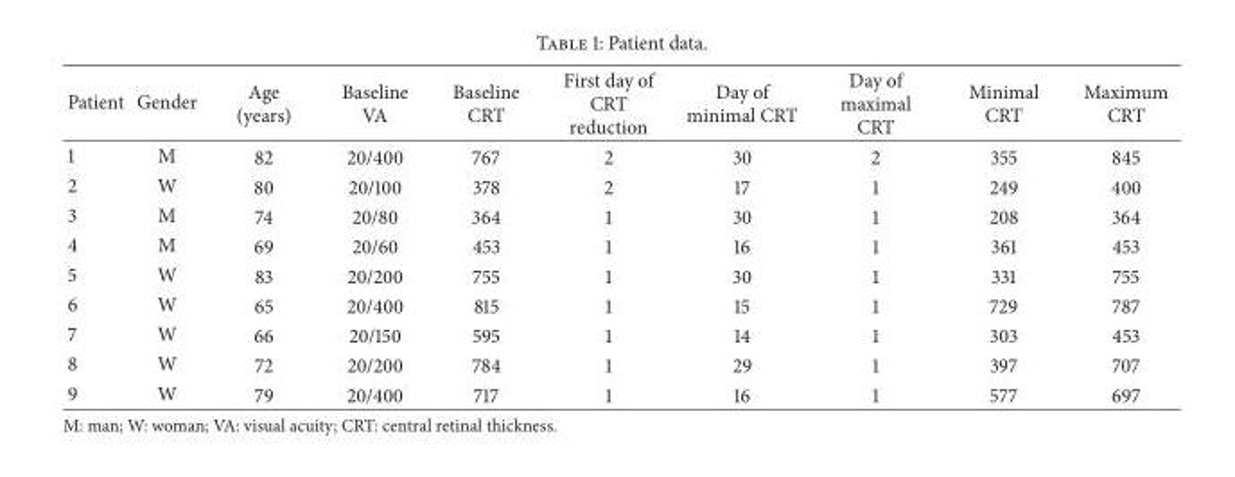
<table><thead><tr><td>Patient</td><td>Gender</td><td>Age (years)</td><td>Baseline VA</td><td>Baseline CRT</td><td>First day of CRT reduction</td><td>Day of minimal CRT</td><td>Day of maximal CRT</td><td>Minimal CRT</td><td>Maximum CRT</td></tr></thead><tbody><tr><td>1</td><td>M</td><td>82</td><td>20/400</td><td>767</td><td>2</td><td>30</td><td>2</td><td>355</td><td>845</td></tr><tr><td>2</td><td>W</td><td>80</td><td>20/100</td><td>378</td><td>2</td><td>17</td><td>1</td><td>249</td><td>400</td></tr><tr><td>3</td><td>M</td><td>74</td><td>20/80</td><td>364</td><td>1</td><td>30</td><td>1</td><td>208</td><td>364</td></tr><tr><td>4</td><td>M</td><td>69</td><td>20/60</td><td>453</td><td>1</td><td>16</td><td>1</td><td>361</td><td>453</td></tr><tr><td>5</td><td>W</td><td>83</td><td>20/200</td><td>755</td><td>1</td><td>30</td><td>1</td><td>331</td><td>755</td></tr><tr><td>6</td><td>W</td><td>65</td><td>20/400</td><td>815</td><td>1</td><td>15</td><td>1</td><td>729</td><td>787</td></tr><tr><td>7</td><td>W</td><td>66</td><td>20/150</td><td>595</td><td>1</td><td>14</td><td>1</td><td>303</td><td>453</td></tr><tr><td>8</td><td>W</td><td>72</td><td>20/200</td><td>784</td><td>1</td><td>29</td><td>1</td><td>397</td><td>707</td></tr><tr><td>9</td><td>W</td><td>79</td><td>20/400</td><td>717</td><td>1</td><td>16</td><td>1</td><td>577</td><td>697</td></tr></tbody></table>